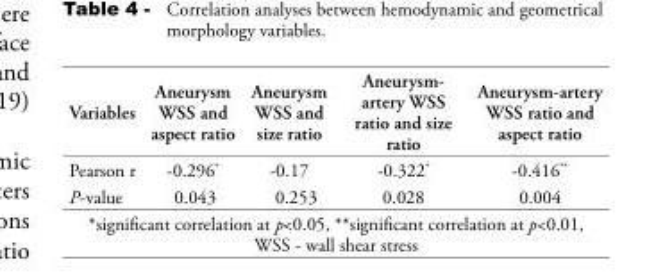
<table><thead><tr><td>Variables</td><td>Aneurysm WSS and aspect ratio</td><td>Aneurysm WSS and size ratio</td><td>Aneurysm- artery WSS ratio and size ratio</td><td>Aneurysm-artery WSS ratio and aspect ratio</td></tr></thead><tbody><tr><td>Pearson r</td><td>-0.296*</td><td>-0.17</td><td>-0.322*</td><td>-0.416**</td></tr><tr><td>P-value</td><td>0.043</td><td>0.253</td><td>0.028</td><td>0.004</td></tr></tbody></table>